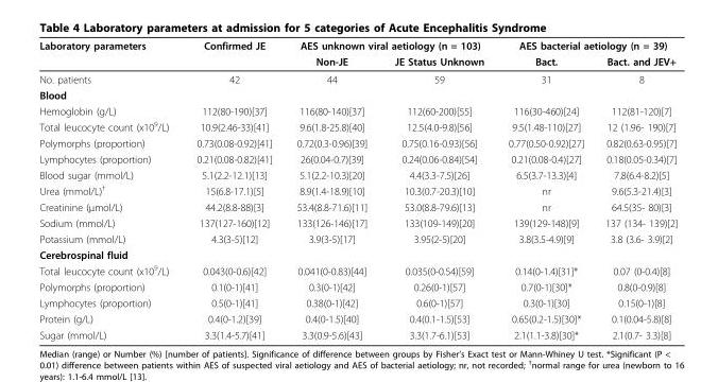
<table><thead><tr><td rowspan="2">Laboratory parameters</td><td rowspan="2">Confirmed JE</td><td colspan="2">AES unknown viral aetiology (n = 103)</td><td colspan="2">AES bacterial aetiology (n = 39)</td></tr><tr><td>Non-JE</td><td>JE Status Unknown</td><td>Bact.</td><td>Bact. and JEV+</td></tr></thead><tbody><tr><td>No. patients</td><td>42</td><td>44</td><td>59</td><td>31</td><td>8</td></tr><tr><td colspan="6">Blood</td></tr><tr><td>Hemoglobin (g/L)</td><td>112(80-190)[37]</td><td>116(80-140)[37]</td><td>112(60-200)[55]</td><td>116(30-460)[24]</td><td>112(81-120)[7]</td></tr><tr><td>Total leucocyte count (x10<sup>9</sup>/L)</td><td>10.9(2.46-33)[41]</td><td>9.6(1.8-25.8)[40]</td><td>12.5(4.0-9.8)[56]</td><td>9.5(1.48-110)[27]</td><td>12 (1.96- 190)[7]</td></tr><tr><td>Polymorphs (proportion)</td><td>0.73(0.08-0.92)[41]</td><td>0.72(0.3-0.96)[39]</td><td>0.75(0.16-0.93)[56]</td><td>0.77(0.50-0.92)[27]</td><td>0.82(0.63-0.95)[7]</td></tr><tr><td>Lymphocytes (proportion)</td><td>0.21(0.08-0.82)[41]</td><td>26(0.04-0.7)[39]</td><td>0.24(0.06-0.84)[54]</td><td>0.21(0.08-0.4)[27]</td><td>0.18(0.05-0.34)[7]</td></tr><tr><td>Blood sugar (mmol/L)</td><td>5.1(2.2-12.1)[13]</td><td>5.1(2.2-10.3)[20]</td><td>4.4(3.3-7.5)[26]</td><td>6.5(3.7-13.3)[4]</td><td>7.8(6.4-8.2)[5]</td></tr><tr><td>Urea (mmol/L)<sup>†</sup></td><td>15(6.8-17.1)[5]</td><td>8.9(1.4-18.9)[10]</td><td>10.3(0.7-20.3)[10]</td><td>nr</td><td>9.6(5.3-21.4)[3]</td></tr><tr><td>Creatinine (μmol/L)</td><td>44.2(8.8-88)[3]</td><td>53.4(8.8-71.6)[11]</td><td>53.0(8.8-79.6)[13]</td><td>nr</td><td>64.5(35- 80)[3]</td></tr><tr><td>Sodium (mmol/L)</td><td>137(127-160)[12]</td><td>133(126-146)[17]</td><td>133(109-149)[20]</td><td>139(129-148)[9]</td><td>137 (134- 139)[2]</td></tr><tr><td>Potassium (mmol/L)</td><td>4.3(3-5)[12]</td><td>3.9(3-5)[17]</td><td>3.95(2-5)[20]</td><td>3.8(3.5-4.9)[9]</td><td>3.8 (3.6- 3.9)[2]</td></tr><tr><td colspan="6">Cerebrospinal fluid</td></tr><tr><td>Total leucocyte count (x10<sup>9</sup>/L)</td><td>0.043(0-0.6)[42]</td><td>0.041(0-0.83)[44]</td><td>0.035(0-0.54)[59]</td><td>0.14(0-1.4)[31]*</td><td>0.07 (0-0.4)[8]</td></tr><tr><td>Polymorphs (proportion)</td><td>0.1(0-1)[41]</td><td>0.3(0-1)[42]</td><td>0.26(0-1)[57]</td><td>0.7(0-1)[30]*</td><td>0.8(0-0.9)[8]</td></tr><tr><td>Lymphocytes (proportion)</td><td>0.5(0-1)[41]</td><td>0.38(0-1)[42]</td><td>0.6(0-1)[57]</td><td>0.3(0-1)[30]</td><td>0.15(0-1)[8]</td></tr><tr><td>Protein (g/L)</td><td>0.4(0-1.2)[39]</td><td>0.4(0-1.5)[40]</td><td>0.4(0.1-1.5)[53]</td><td>0.65(0.2-1.5)[30]*</td><td>0.1(0.04-5.8)[8]</td></tr><tr><td>Sugar (mmol/L)</td><td>3.3(1.4-5.7)[41]</td><td>3.3(0.9-5.6)[43]</td><td>3.3(1.7-6.1)[53]</td><td>2.1(1.1-3.8)[30]*</td><td>2.1(0.7- 3.3)[8]</td></tr></tbody></table>